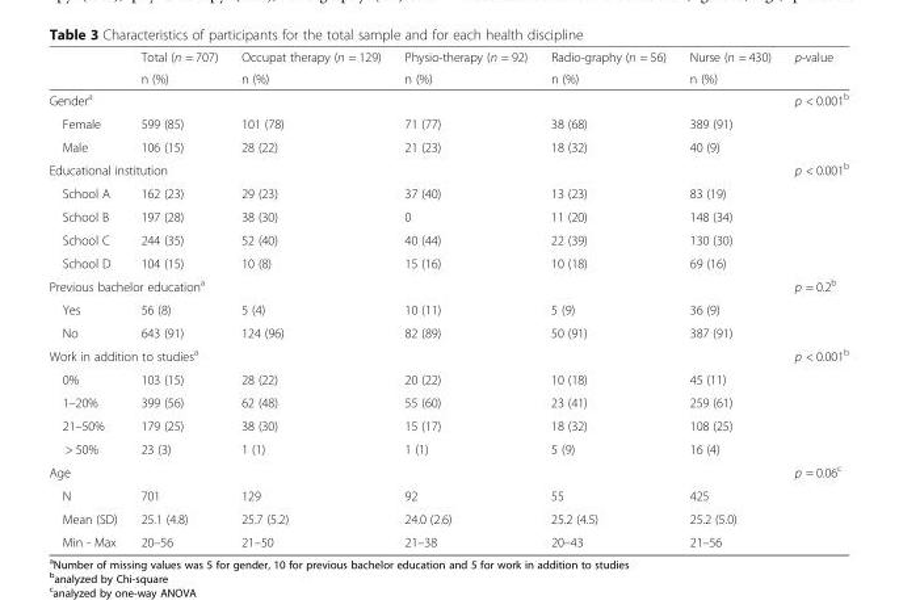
<table><thead><tr><td rowspan="2"></td><td rowspan="2">Total (n = 707) n (%)</td><td rowspan="2">Occupat therapy (n = 129) n (%)</td><td rowspan="2">Physio-therapy (n = 92) n (%)</td><td rowspan="2">Radio-graphy (n = 56) n (%)</td><td rowspan="2">Nurse (n = 430) n (%)</td><td rowspan="2">p-value</td></tr><tr></tr></thead><tbody><tr><td colspan="6">Gender<sup>a</sup></td><td>p &lt; 0.001<sup>b</sup></td></tr><tr><td>Female</td><td>599 (85)</td><td>101 (78)</td><td>71 (77)</td><td>38 (68)</td><td>389 (91)</td><td></td></tr><tr><td>Male</td><td>106 (15)</td><td>28 (22)</td><td>21 (23)</td><td>18 (32)</td><td>40 (9)</td><td></td></tr><tr><td colspan="6">Educational institution</td><td>p &lt; 0.001<sup>b</sup></td></tr><tr><td>School A</td><td>162 (23)</td><td>29 (23)</td><td>37 (40)</td><td>13 (23)</td><td>83 (19)</td><td></td></tr><tr><td>School B</td><td>197 (28)</td><td>38 (30)</td><td>0</td><td>11 (20)</td><td>148 (34)</td><td></td></tr><tr><td>School C</td><td>244 (35)</td><td>52 (40)</td><td>40 (44)</td><td>22 (39)</td><td>130 (30)</td><td></td></tr><tr><td>School D</td><td>104 (15)</td><td>10 (8)</td><td>15 (16)</td><td>10 (18)</td><td>69 (16)</td><td></td></tr><tr><td colspan="6">Previous bachelor education<sup>a</sup></td><td>p = 0.2<sup>b</sup></td></tr><tr><td>Yes</td><td>56 (8)</td><td>5 (4)</td><td>10 (11)</td><td>5 (9)</td><td>36 (9)</td><td></td></tr><tr><td>No</td><td>643 (91)</td><td>124 (96)</td><td>82 (89)</td><td>50 (91)</td><td>387 (91)</td><td></td></tr><tr><td colspan="6">Work in addition to studies<sup>a</sup></td><td>p &lt; 0.001<sup>b</sup></td></tr><tr><td>0%</td><td>103 (15)</td><td>28 (22)</td><td>20 (22)</td><td>10 (18)</td><td>45 (11)</td><td></td></tr><tr><td>1–20%</td><td>399 (56)</td><td>62 (48)</td><td>55 (60)</td><td>23 (41)</td><td>259 (61)</td><td></td></tr><tr><td>21–50%</td><td>179 (25)</td><td>38 (30)</td><td>15 (17)</td><td>18 (32)</td><td>108 (25)</td><td></td></tr><tr><td>&gt; 50%</td><td>23 (3)</td><td>1 (1)</td><td>1 (1)</td><td>5 (9)</td><td>16 (4)</td><td></td></tr><tr><td colspan="6">Age</td><td>p = 0.06<sup>c</sup></td></tr><tr><td>N</td><td>701</td><td>129</td><td>92</td><td>55</td><td>425</td><td></td></tr><tr><td>Mean (SD)</td><td>25.1 (4.8)</td><td>25.7 (5.2)</td><td>24.0 (2.6)</td><td>25.2 (4.5)</td><td>25.2 (5.0)</td><td></td></tr><tr><td>Min - Max</td><td>20–56</td><td>21–50</td><td>21–38</td><td>20–43</td><td>21–56</td><td></td></tr></tbody></table>